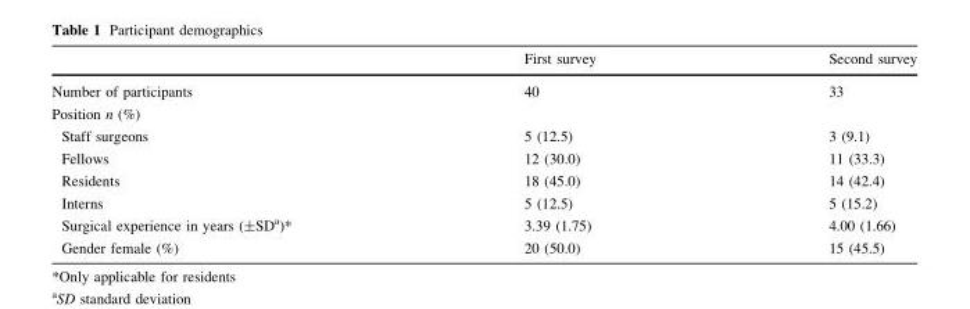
<table><thead><tr><td></td><td>First survey</td><td>Second survey</td></tr></thead><tbody><tr><td>Number of participants</td><td>40</td><td>33</td></tr><tr><td colspan="3">Position n (%)</td></tr><tr><td>Staff surgeons</td><td>5 (12.5)</td><td>3 (9.1)</td></tr><tr><td>Fellows</td><td>12 (30.0)</td><td>11 (33.3)</td></tr><tr><td>Residents</td><td>18 (45.0)</td><td>14 (42.4)</td></tr><tr><td>Interns</td><td>5 (12.5)</td><td>5 (15.2)</td></tr><tr><td>Surgical experience in years (±SD<sup>a</sup>)*</td><td>3.39 (1.75)</td><td>4.00 (1.66)</td></tr><tr><td>Gender female (%)</td><td>20 (50.0)</td><td>15 (45.5)</td></tr></tbody></table>